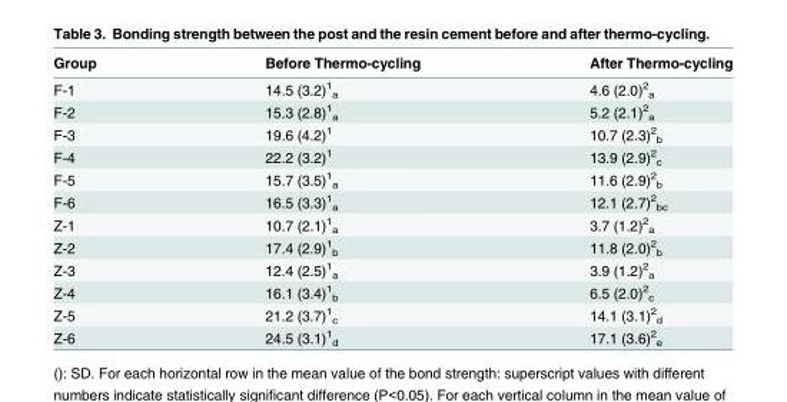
<table><thead><tr><td>Group</td><td>Before Thermo-cycling</td><td>After Thermo-cycling</td></tr></thead><tbody><tr><td>F-1</td><td>14.5 (3.2)<sup>1</sup> <sub>a</sub></td><td>4.6 (2.0)<sup>2</sup> <sub>a</sub></td></tr><tr><td>F-2</td><td>15.3 (2.8)<sup>1</sup> <sub>a</sub></td><td>5.2 (2.1)<sup>2</sup> <sub>a</sub></td></tr><tr><td>F-3</td><td>19.6 (4.2)<sup>1</sup></td><td>10.7 (2.3)<sup>2</sup> <sub>b</sub></td></tr><tr><td>F-4</td><td>22.2 (3.2)<sup>1</sup></td><td>13.9 (2.9)<sup>2</sup> <sub>c</sub></td></tr><tr><td>F-5</td><td>15.7 (3.5)<sup>1</sup> <sub>a</sub></td><td>11.6 (2.9)<sup>2</sup> <sub>b</sub></td></tr><tr><td>F-6</td><td>16.5 (3.3)<sup>1</sup> <sub>a</sub></td><td>12.1 (2.7)<sup>2</sup> <sub>bc</sub></td></tr><tr><td>Z-1</td><td>10.7 (2.1)<sup>1</sup> <sub>a</sub></td><td>3.7 (1.2)<sup>2</sup> <sub>a</sub></td></tr><tr><td>Z-2</td><td>17.4 (2.9)<sup>1</sup> <sub>b</sub></td><td>11.8 (2.0)<sup>2</sup> <sub>b</sub></td></tr><tr><td>Z-3</td><td>12.4 (2.5)<sup>1</sup> <sub>a</sub></td><td>3.9 (1.2)<sup>2</sup> <sub>a</sub></td></tr><tr><td>Z-4</td><td>16.1 (3.4)<sup>1</sup> <sub>b</sub></td><td>6.5 (2.0)<sup>2</sup> <sub>c</sub></td></tr><tr><td>Z-5</td><td>21.2 (3.7)<sup>1</sup> <sub>c</sub></td><td>14.1 (3.1)<sup>2</sup> <sub>d</sub></td></tr><tr><td>Z-6</td><td>24.5 (3.1)<sup>1</sup> <sub>d</sub></td><td>17.1 (3.6)<sup>2</sup> <sub>e</sub></td></tr></tbody></table>